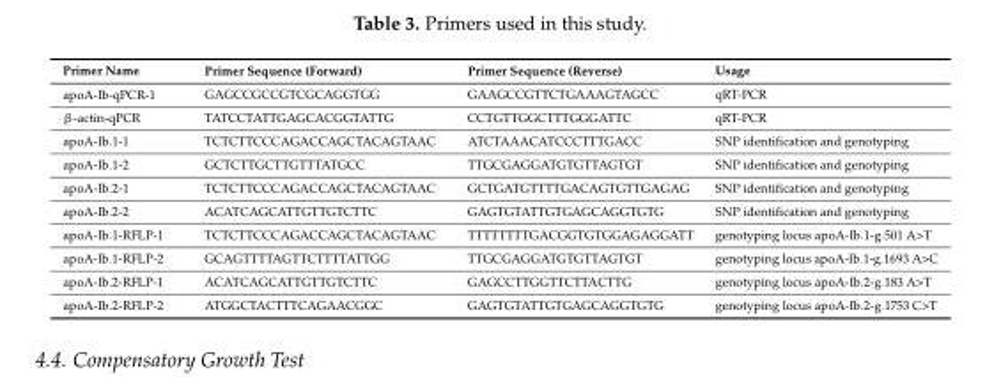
<table><thead><tr><td>Primer Name</td><td>Primer Sequence (Forward)</td><td>Primer Sequence (Reverse)</td><td>Usage</td></tr></thead><tbody><tr><td>apoA-Ib-qPCR-1</td><td>GAGCCGCCGTCGCAGGTGG</td><td>GAAGCCGTTCTGAAAGTAGCC</td><td>qRT-PCR</td></tr><tr><td>β-actin-qPCR</td><td>TATCCTATTGAGCACGGTATTG</td><td>CCTGTTGGCTTTGGGATTC</td><td>qRT-PCR</td></tr><tr><td>apoA-Ib.1-1</td><td>TCTCTTCCCAGACCAGCTACAGTAAC</td><td>ATCTAAACATCCCTTTGACC</td><td>SNP identification and genotyping</td></tr><tr><td>apoA-Ib.1-2</td><td>GCTCTTGCTTGTTTATGCC</td><td>TTGCGAGGATGTGTTAGTGT</td><td>SNP identification and genotyping</td></tr><tr><td>apoA-Ib.2-1</td><td>TCTCTTCCCAGACCAGCTACAGTAAC</td><td>GCTGATGTTTTGACAGTGTTGAGAG</td><td>SNP identification and genotyping</td></tr><tr><td>apoA-Ib.2-2</td><td>ACATCAGCATTGTTGTCTTC</td><td>GAGTGTATTGTGAGCAGGTGTG</td><td>SNP identification and genotyping</td></tr><tr><td>apoA-Ib.1-RFLP-1</td><td>TCTCTTCCCAGACCAGCTACAGTAAC</td><td>TTTTTTTTGACGGTGTGGAGAGGATT</td><td>genotyping locus apoA-Ib.1-g.501 A&gt;T</td></tr><tr><td>apoA-Ib.1-RFLP-2</td><td>GCAGTTTTAGTTCTTTTATTGG</td><td>TTGCGAGGATGTGTTAGTGT</td><td>genotyping locus apoA-Ib.1-g.1693 A&gt;C</td></tr><tr><td>apoA-Ib.2-RFLP-1</td><td>ACATCAGCATTGTTGTCTTC</td><td>GAGCCTTGGTTCTTACTTG</td><td>genotyping locus apoA-Ib.2-g.183 A&gt;T</td></tr><tr><td>apoA-Ib.2-RFLP-2</td><td>ATGGCTACTTTCAGAACGGC</td><td>GAGTGTATTGTGAGCAGGTGTG</td><td>genotyping locus apoA-Ib.2-g.1753 C&gt;T</td></tr></tbody></table>